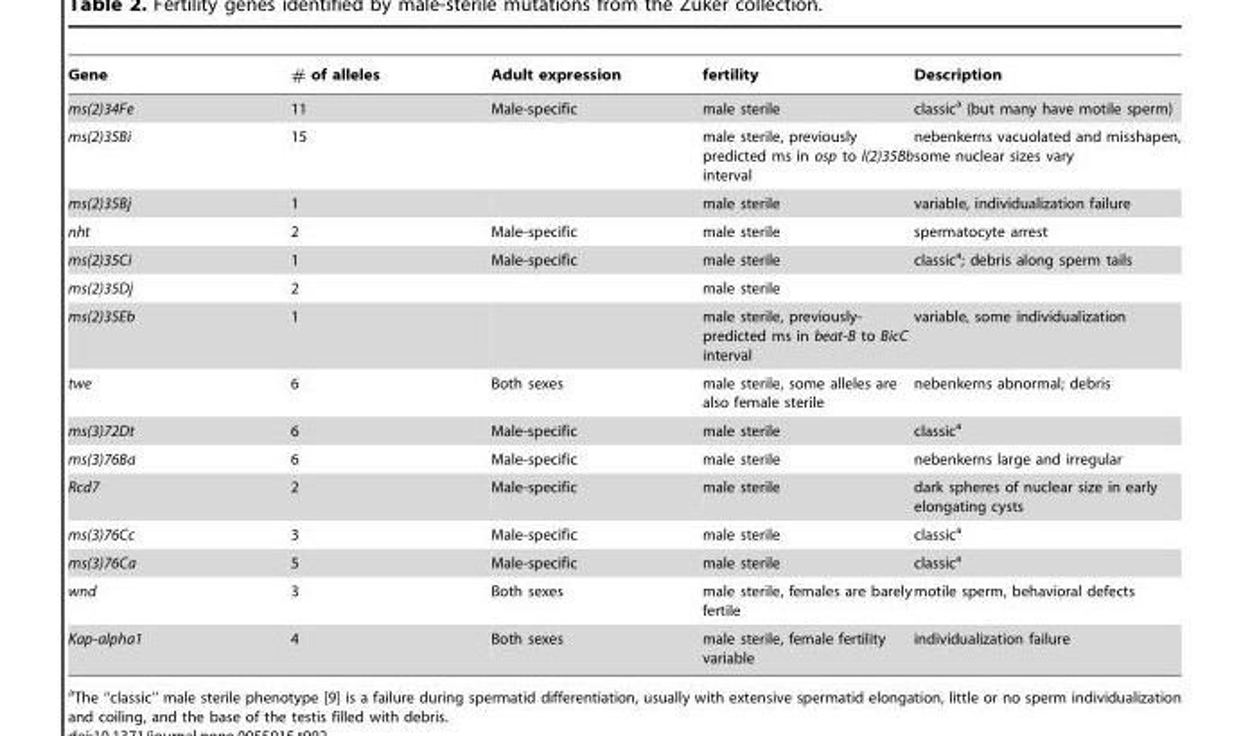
<table><thead><tr><td>Gene</td><td># of alleles</td><td>Adult expression</td><td>fertility</td><td>Description</td></tr></thead><tbody><tr><td>ms(2)34Fe</td><td>11</td><td>Male-specific</td><td>male sterile</td><td>classic<sup>a</sup> (but many have motile sperm)</td></tr><tr><td>ms(2)35Bi</td><td>15</td><td></td><td>male sterile, previously predicted ms in osp to l(2)35Bb interval</td><td>nebenkerns vacuolated and misshapen, some nuclear sizes vary</td></tr><tr><td>ms(2)35Bj</td><td>1</td><td></td><td>male sterile</td><td>variable, individualization failure</td></tr><tr><td>nht</td><td>2</td><td>Male-specific</td><td>male sterile</td><td>spermatocyte arrest</td></tr><tr><td>ms(2)35Ci</td><td>1</td><td>Male-specific</td><td>male sterile</td><td>classic<sup>a</sup>; debris along sperm tails</td></tr><tr><td>ms(2)35Dj</td><td>2</td><td></td><td>male sterile</td><td></td></tr><tr><td>ms(2)35Eb</td><td>1</td><td></td><td>male sterile, previously- predicted ms in beat-B to BicC interval</td><td>variable, some individualization</td></tr><tr><td>twe</td><td>6</td><td>Both sexes</td><td>male sterile, some alleles are also female sterile</td><td>nebenkerns abnormal; debris</td></tr><tr><td>ms(3)72Dt</td><td>6</td><td>Male-specific</td><td>male sterile</td><td>classic<sup>a</sup></td></tr><tr><td>ms(3)76Ba</td><td>6</td><td>Male-specific</td><td>male sterile</td><td>nebenkerns large and irregular</td></tr><tr><td>Rcd7</td><td>2</td><td>Male-specific</td><td>male sterile</td><td>dark spheres of nuclear size in early elongating cysts</td></tr><tr><td>ms(3)76Cc</td><td>3</td><td>Male-specific</td><td>male sterile</td><td>classic<sup>a</sup></td></tr><tr><td>ms(3)76Ca</td><td>5</td><td>Male-specific</td><td>male sterile</td><td>classic<sup>a</sup></td></tr><tr><td>wnd</td><td>3</td><td>Both sexes</td><td>male sterile, females are barely fertile</td><td>motile sperm, behavioral defects</td></tr><tr><td>Kap-alpha1</td><td>4</td><td>Both sexes</td><td>male sterile, female fertility variable</td><td>individualization failure</td></tr></tbody></table>